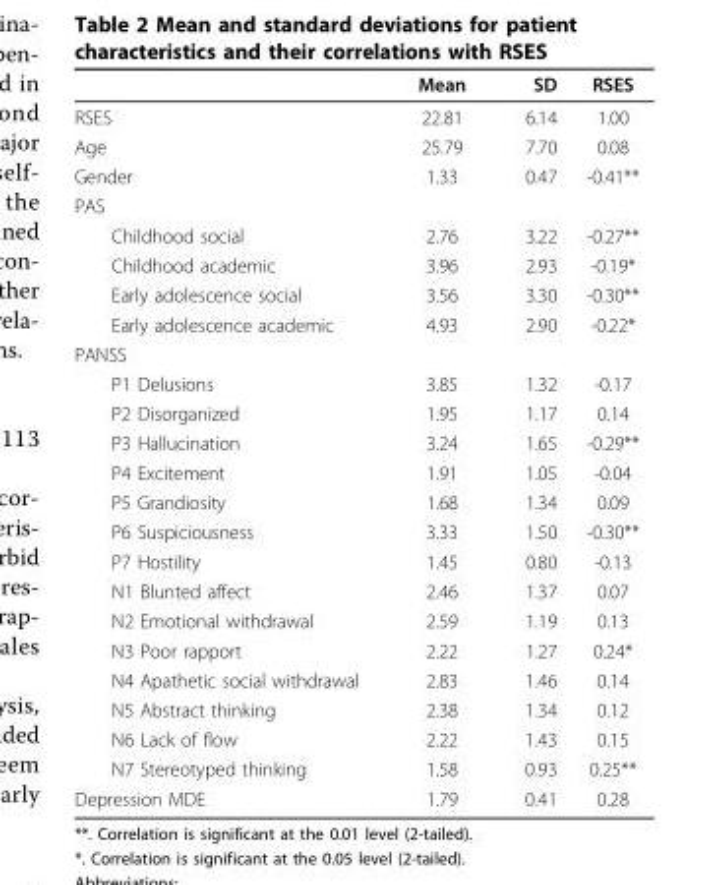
<table><thead><tr><td></td><td>Mean</td><td>SD</td><td>RSES</td></tr></thead><tbody><tr><td>RSES</td><td>22.81</td><td>6.14</td><td>1.00</td></tr><tr><td>Age</td><td>25.79</td><td>7.70</td><td>0.08</td></tr><tr><td>Gender</td><td>1.33</td><td>0.47</td><td>-0.41**</td></tr><tr><td colspan="4">PAS</td></tr><tr><td>Childhood social</td><td>2.76</td><td>3.22</td><td>-0.27**</td></tr><tr><td>Childhood academic</td><td>3.96</td><td>2.93</td><td>-0.19*</td></tr><tr><td>Early adolescence social</td><td>3.56</td><td>3.30</td><td>-0.30**</td></tr><tr><td>Early adolescence academic</td><td>4.93</td><td>2.90</td><td>-0.22*</td></tr><tr><td colspan="4">PANSS</td></tr><tr><td>P1 Delusions</td><td>3.85</td><td>1.32</td><td>-0.17</td></tr><tr><td>P2 Disorganized</td><td>1.95</td><td>1.17</td><td>0.14</td></tr><tr><td>P3 Hallucination</td><td>3.24</td><td>1.65</td><td>-0.29**</td></tr><tr><td>P4 Excitement</td><td>1.91</td><td>1.05</td><td>-0.04</td></tr><tr><td>P5 Grandiosity</td><td>1.68</td><td>1.34</td><td>0.09</td></tr><tr><td>P6 Suspiciousness</td><td>3.33</td><td>1.50</td><td>-0.30**</td></tr><tr><td>P7 Hostility</td><td>1.45</td><td>0.80</td><td>-0.13</td></tr><tr><td>N1 Blunted affect</td><td>2.46</td><td>1.37</td><td>0.07</td></tr><tr><td>N2 Emotional withdrawal</td><td>2.59</td><td>1.19</td><td>0.13</td></tr><tr><td>N3 Poor rapport</td><td>2.22</td><td>1.27</td><td>0.24*</td></tr><tr><td>N4 Apathetic social withdrawal</td><td>2.83</td><td>1.46</td><td>0.14</td></tr><tr><td>N5 Abstract thinking</td><td>2.38</td><td>1.34</td><td>0.12</td></tr><tr><td>N6 Lack of flow</td><td>2.22</td><td>1.43</td><td>0.15</td></tr><tr><td>N7 Stereotyped thinking</td><td>1.58</td><td>0.93</td><td>0.25**</td></tr><tr><td>Depression MDE</td><td>1.79</td><td>0.41</td><td>0.28</td></tr></tbody></table>